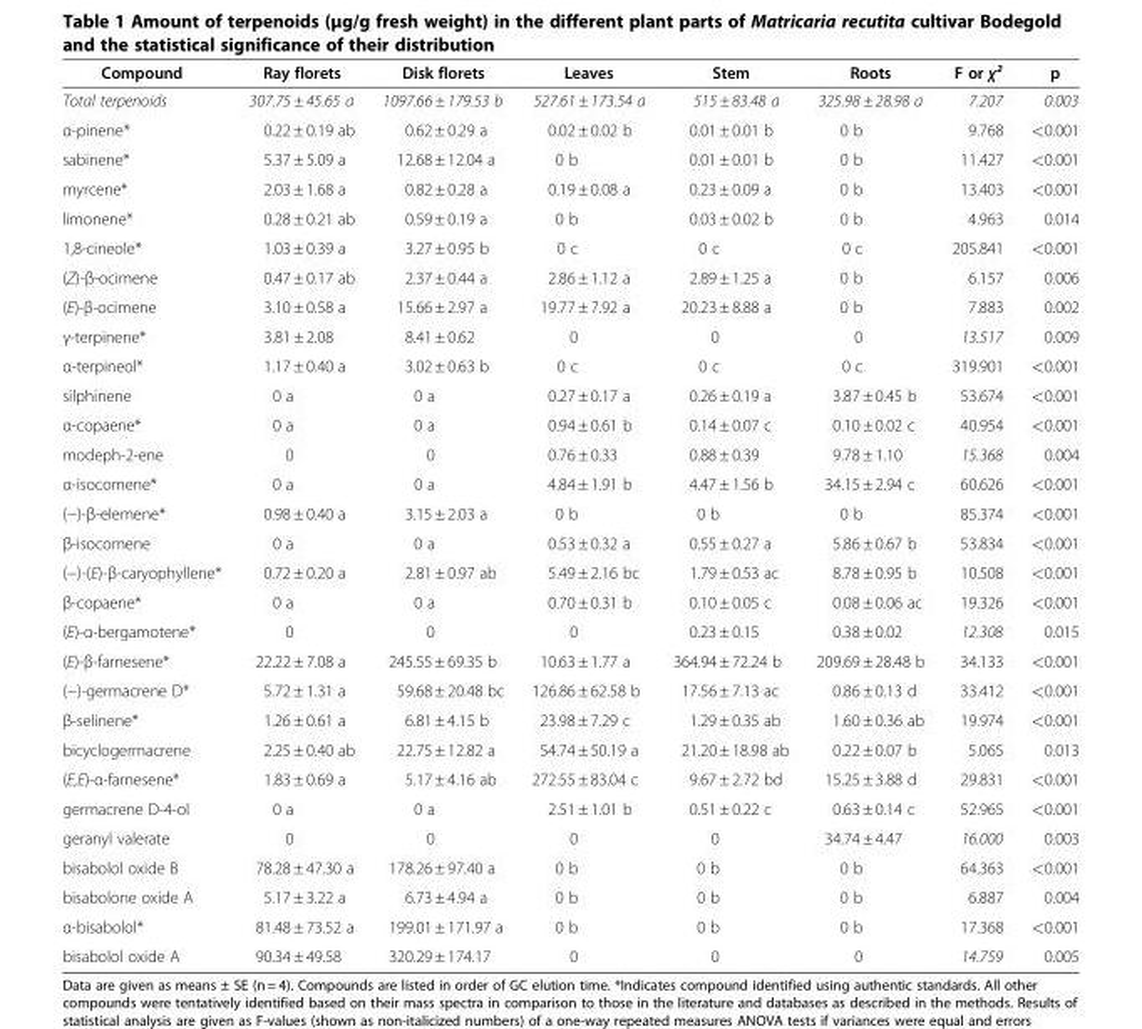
<table><thead><tr><td>Compound</td><td>Ray florets</td><td>Disk florets</td><td>Leaves</td><td>Stem</td><td>Roots</td><td>F or χ²</td><td>p</td></tr></thead><tbody><tr><td>Total terpenoids</td><td>307.75 ± 45.65 a</td><td>1097.66 ± 179.53 b</td><td>527.61 ± 173.54 a</td><td>515 ± 83.48 a</td><td>325.98 ± 28.98 a</td><td>7.207</td><td>0.003</td></tr><tr><td>α-pinene*</td><td>0.22 ± 0.19 ab</td><td>0.62 ± 0.29 a</td><td>0.02 ± 0.02 b</td><td>0.01 ± 0.01 b</td><td>0 b</td><td>9.768</td><td>&lt;0.001</td></tr><tr><td>sabinene*</td><td>5.37 ± 5.09 a</td><td>12.68 ± 12.04 a</td><td>0 b</td><td>0.01 ± 0.01 b</td><td>0 b</td><td>11.427</td><td>&lt;0.001</td></tr><tr><td>myrcene*</td><td>2.03 ± 1.68 a</td><td>0.82 ± 0.28 a</td><td>0.19 ± 0.08 a</td><td>0.23 ± 0.09 a</td><td>0 b</td><td>13.403</td><td>&lt;0.001</td></tr><tr><td>limonene*</td><td>0.28 ± 0.21 ab</td><td>0.59 ± 0.19 a</td><td>0 b</td><td>0.03 ± 0.02 b</td><td>0 b</td><td>4.963</td><td>0.014</td></tr><tr><td>1,8-cineole*</td><td>1.03 ± 0.39 a</td><td>3.27 ± 0.95 b</td><td>0 c</td><td>0 c</td><td>0 c</td><td>205.841</td><td>&lt;0.001</td></tr><tr><td>(Z)-β-ocimene</td><td>0.47 ± 0.17 ab</td><td>2.37 ± 0.44 a</td><td>2.86 ± 1.12 a</td><td>2.89 ± 1.25 a</td><td>0 b</td><td>6.157</td><td>0.006</td></tr><tr><td>(E)-β-ocimene</td><td>3.10 ± 0.58 a</td><td>15.66 ± 2.97 a</td><td>19.77 ± 7.92 a</td><td>20.23 ± 8.88 a</td><td>0 b</td><td>7.883</td><td>0.002</td></tr><tr><td>γ-terpinene*</td><td>3.81 ± 2.08</td><td>8.41 ± 0.62</td><td>0</td><td>0</td><td>0</td><td>13.517</td><td>0.009</td></tr><tr><td>α-terpineol*</td><td>1.17 ± 0.40 a</td><td>3.02 ± 0.63 b</td><td>0 c</td><td>0 c</td><td>0 c</td><td>319.901</td><td>&lt;0.001</td></tr><tr><td>silphinene</td><td>0 a</td><td>0 a</td><td>0.27 ± 0.17 a</td><td>0.26 ± 0.19 a</td><td>3.87 ± 0.45 b</td><td>53.674</td><td>&lt;0.001</td></tr><tr><td>α-copaene*</td><td>0 a</td><td>0 a</td><td>0.94 ± 0.61 b</td><td>0.14 ± 0.07 c</td><td>0.10 ± 0.02 c</td><td>40.954</td><td>&lt;0.001</td></tr><tr><td>modeph-2-ene</td><td>0</td><td>0</td><td>0.76 ± 0.33</td><td>0.88 ± 0.39</td><td>9.78 ± 1.10</td><td>15.368</td><td>0.004</td></tr><tr><td>α-isocomene*</td><td>0 a</td><td>0 a</td><td>4.84 ± 1.91 b</td><td>4.47 ± 1.56 b</td><td>34.15 ± 2.94 c</td><td>60.626</td><td>&lt;0.001</td></tr><tr><td>(−)-β-elemene*</td><td>0.98 ± 0.40 a</td><td>3.15 ± 2.03 a</td><td>0 b</td><td>0 b</td><td>0 b</td><td>85.374</td><td>&lt;0.001</td></tr><tr><td>β-isocomene</td><td>0 a</td><td>0 a</td><td>0.53 ± 0.32 a</td><td>0.55 ± 0.27 a</td><td>5.86 ± 0.67 b</td><td>53.834</td><td>&lt;0.001</td></tr><tr><td>(−)-(E)-β-caryophyllene*</td><td>0.72 ± 0.20 a</td><td>2.81 ± 0.97 ab</td><td>5.49 ± 2.16 bc</td><td>1.79 ± 0.53 ac</td><td>8.78 ± 0.95 b</td><td>10.508</td><td>&lt;0.001</td></tr><tr><td>β-copaene*</td><td>0 a</td><td>0 a</td><td>0.70 ± 0.31 b</td><td>0.10 ± 0.05 c</td><td>0.08 ± 0.06 ac</td><td>19.326</td><td>&lt;0.001</td></tr><tr><td>(E)-α-bergamotene*</td><td>0</td><td>0</td><td>0</td><td>0.23 ± 0.15</td><td>0.38 ± 0.02</td><td>12.308</td><td>0.015</td></tr><tr><td>(E)-β-farnesene*</td><td>22.22 ± 7.08 a</td><td>245.55 ± 69.35 b</td><td>10.63 ± 1.77 a</td><td>364.94 ± 72.24 b</td><td>209.69 ± 28.48 b</td><td>34.133</td><td>&lt;0.001</td></tr><tr><td>(−)-germacrene D*</td><td>5.72 ± 1.31 a</td><td>59.68 ± 20.48 bc</td><td>126.86 ± 62.58 b</td><td>17.56 ± 7.13 ac</td><td>0.86 ± 0.13 d</td><td>33.412</td><td>&lt;0.001</td></tr><tr><td>β-selinene*</td><td>1.26 ± 0.61 a</td><td>6.81 ± 4.15 b</td><td>23.98 ± 7.29 c</td><td>1.29 ± 0.35 ab</td><td>1.60 ± 0.36 ab</td><td>19.974</td><td>&lt;0.001</td></tr><tr><td>bicyclogermacrene</td><td>2.25 ± 0.40 ab</td><td>22.75 ± 12.82 a</td><td>54.74 ± 50.19 a</td><td>21.20 ± 18.98 ab</td><td>0.22 ± 0.07 b</td><td>5.065</td><td>0.013</td></tr><tr><td>(E,E)-α-farnesene*</td><td>1.83 ± 0.69 a</td><td>5.17 ± 4.16 ab</td><td>272.55 ± 83.04 c</td><td>9.67 ± 2.72 bd</td><td>15.25 ± 3.88 d</td><td>29.831</td><td>&lt;0.001</td></tr><tr><td>germacrene D-4-ol</td><td>0 a</td><td>0 a</td><td>2.51 ± 1.01 b</td><td>0.51 ± 0.22 c</td><td>0.63 ± 0.14 c</td><td>52.965</td><td>&lt;0.001</td></tr><tr><td>geranyl valerate</td><td>0</td><td>0</td><td>0</td><td>0</td><td>34.74 ± 4.47</td><td>16.000</td><td>0.003</td></tr><tr><td>bisabolol oxide B</td><td>78.28 ± 47.30 a</td><td>178.26 ± 97.40 a</td><td>0 b</td><td>0 b</td><td>0 b</td><td>64.363</td><td>&lt;0.001</td></tr><tr><td>bisabolone oxide A</td><td>5.17 ± 3.22 a</td><td>6.73 ± 4.94 a</td><td>0 b</td><td>0 b</td><td>0 b</td><td>6.887</td><td>0.004</td></tr><tr><td>α-bisabolol*</td><td>81.48 ± 73.52 a</td><td>199.01 ± 171.97 a</td><td>0 b</td><td>0 b</td><td>0 b</td><td>17.368</td><td>&lt;0.001</td></tr><tr><td>bisabolol oxide A</td><td>90.34 ± 49.58</td><td>320.29 ± 174.17</td><td>0</td><td>0</td><td>0</td><td>14.759</td><td>0.005</td></tr></tbody></table>